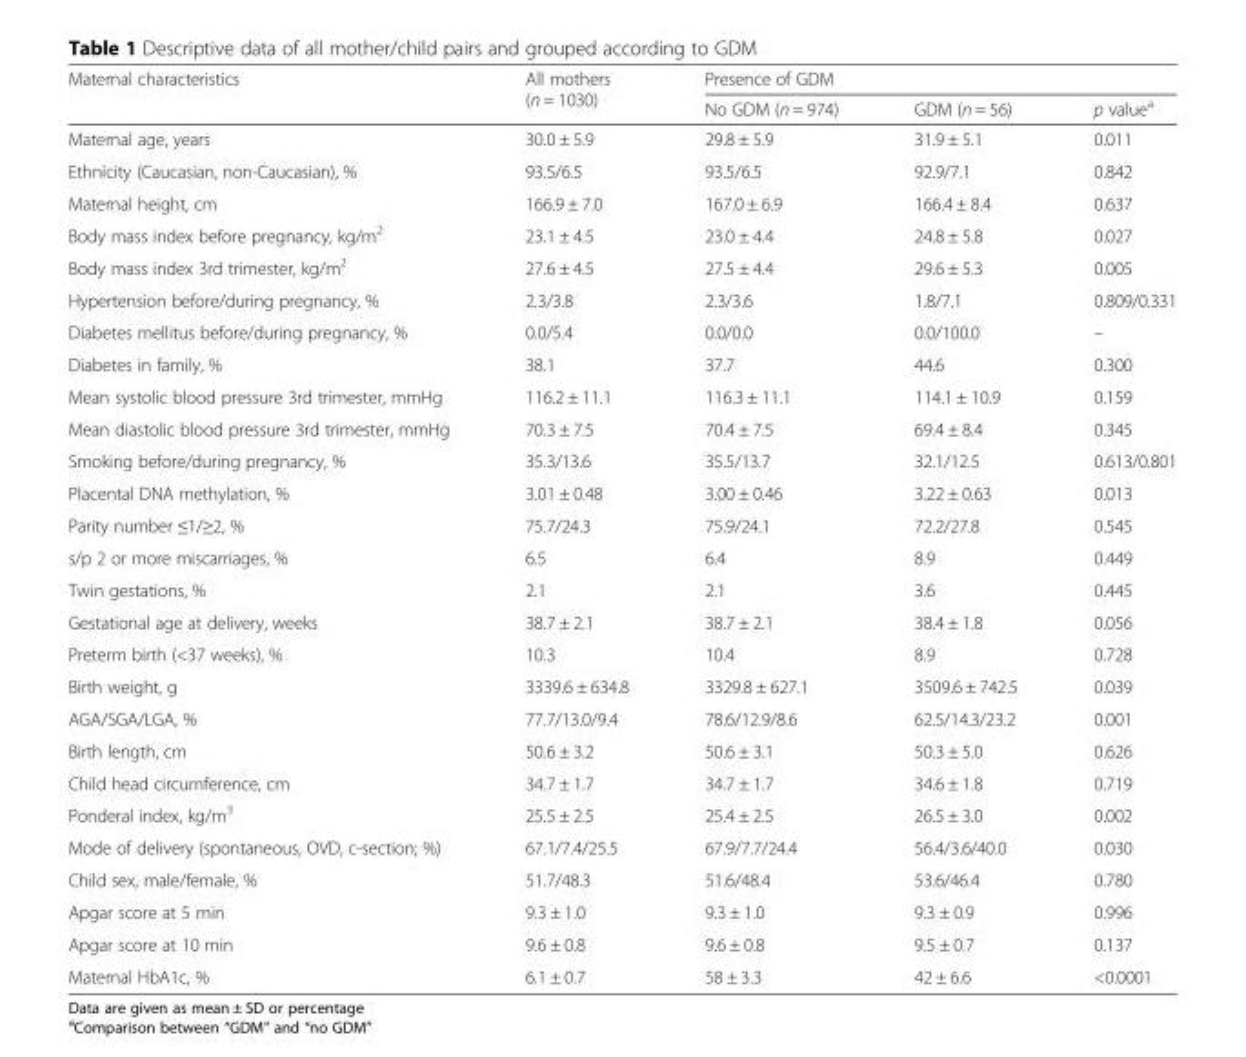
<table><thead><tr><td rowspan="2">Maternal characteristics</td><td rowspan="2">All mothers (n = 1030)</td><td colspan="3">Presence of GDM</td></tr><tr><td>No GDM (n = 974)</td><td>GDM (n = 56)</td><td>p value<sup>a</sup></td></tr></thead><tbody><tr><td>Maternal age, years</td><td>30.0 ± 5.9</td><td>29.8 ± 5.9</td><td>31.9 ± 5.1</td><td>0.011</td></tr><tr><td>Ethnicity (Caucasian, non-Caucasian), %</td><td>93.5/6.5</td><td>93.5/6.5</td><td>92.9/7.1</td><td>0.842</td></tr><tr><td>Maternal height, cm</td><td>166.9 ± 7.0</td><td>167.0 ± 6.9</td><td>166.4 ± 8.4</td><td>0.637</td></tr><tr><td>Body mass index before pregnancy, kg/m<sup>2</sup></td><td>23.1 ± 4.5</td><td>23.0 ± 4.4</td><td>24.8 ± 5.8</td><td>0.027</td></tr><tr><td>Body mass index 3rd trimester, kg/m<sup>2</sup></td><td>27.6 ± 4.5</td><td>27.5 ± 4.4</td><td>29.6 ± 5.3</td><td>0.005</td></tr><tr><td>Hypertension before/during pregnancy, %</td><td>2.3/3.8</td><td>2.3/3.6</td><td>1.8/7.1</td><td>0.809/0.331</td></tr><tr><td>Diabetes mellitus before/during pregnancy, %</td><td>0.0/5.4</td><td>0.0/0.0</td><td>0.0/100.0</td><td>–</td></tr><tr><td>Diabetes in family, %</td><td>38.1</td><td>37.7</td><td>44.6</td><td>0.300</td></tr><tr><td>Mean systolic blood pressure 3rd trimester, mmHg</td><td>116.2 ± 11.1</td><td>116.3 ± 11.1</td><td>114.1 ± 10.9</td><td>0.159</td></tr><tr><td>Mean diastolic blood pressure 3rd trimester, mmHg</td><td>70.3 ± 7.5</td><td>70.4 ± 7.5</td><td>69.4 ± 8.4</td><td>0.345</td></tr><tr><td>Smoking before/during pregnancy, %</td><td>35.3/13.6</td><td>35.5/13.7</td><td>32.1/12.5</td><td>0.613/0.801</td></tr><tr><td>Placental DNA methylation, %</td><td>3.01 ± 0.48</td><td>3.00 ± 0.46</td><td>3.22 ± 0.63</td><td>0.013</td></tr><tr><td>Parity number ≤1/≥2, %</td><td>75.7/24.3</td><td>75.9/24.1</td><td>72.2/27.8</td><td>0.545</td></tr><tr><td>s/p 2 or more miscarriages, %</td><td>6.5</td><td>6.4</td><td>8.9</td><td>0.449</td></tr><tr><td>Twin gestations, %</td><td>2.1</td><td>2.1</td><td>3.6</td><td>0.445</td></tr><tr><td>Gestational age at delivery, weeks</td><td>38.7 ± 2.1</td><td>38.7 ± 2.1</td><td>38.4 ± 1.8</td><td>0.056</td></tr><tr><td>Preterm birth (&lt;37 weeks), %</td><td>10.3</td><td>10.4</td><td>8.9</td><td>0.728</td></tr><tr><td>Birth weight, g</td><td>3339.6 ± 634.8</td><td>3329.8 ± 627.1</td><td>3509.6 ± 742.5</td><td>0.039</td></tr><tr><td>AGA/SGA/LGA, %</td><td>77.7/13.0/9.4</td><td>78.6/12.9/8.6</td><td>62.5/14.3/23.2</td><td>0.001</td></tr><tr><td>Birth length, cm</td><td>50.6 ± 3.2</td><td>50.6 ± 3.1</td><td>50.3 ± 5.0</td><td>0.626</td></tr><tr><td>Child head circumference, cm</td><td>34.7 ± 1.7</td><td>34.7 ± 1.7</td><td>34.6 ± 1.8</td><td>0.719</td></tr><tr><td>Ponderal index, kg/m<sup>3</sup></td><td>25.5 ± 2.5</td><td>25.4 ± 2.5</td><td>26.5 ± 3.0</td><td>0.002</td></tr><tr><td>Mode of delivery (spontaneous, OVD, c-section; %)</td><td>67.1/7.4/25.5</td><td>67.9/7.7/24.4</td><td>56.4/3.6/40.0</td><td>0.030</td></tr><tr><td>Child sex, male/female, %</td><td>51.7/48.3</td><td>51.6/48.4</td><td>53.6/46.4</td><td>0.780</td></tr><tr><td>Apgar score at 5 min</td><td>9.3 ± 1.0</td><td>9.3 ± 1.0</td><td>9.3 ± 0.9</td><td>0.996</td></tr><tr><td>Apgar score at 10 min</td><td>9.6 ± 0.8</td><td>9.6 ± 0.8</td><td>9.5 ± 0.7</td><td>0.137</td></tr><tr><td>Maternal HbA1c, %</td><td>6.1 ± 0.7</td><td>58 ± 3.3</td><td>42 ± 6.6</td><td>&lt;0.0001</td></tr></tbody></table>